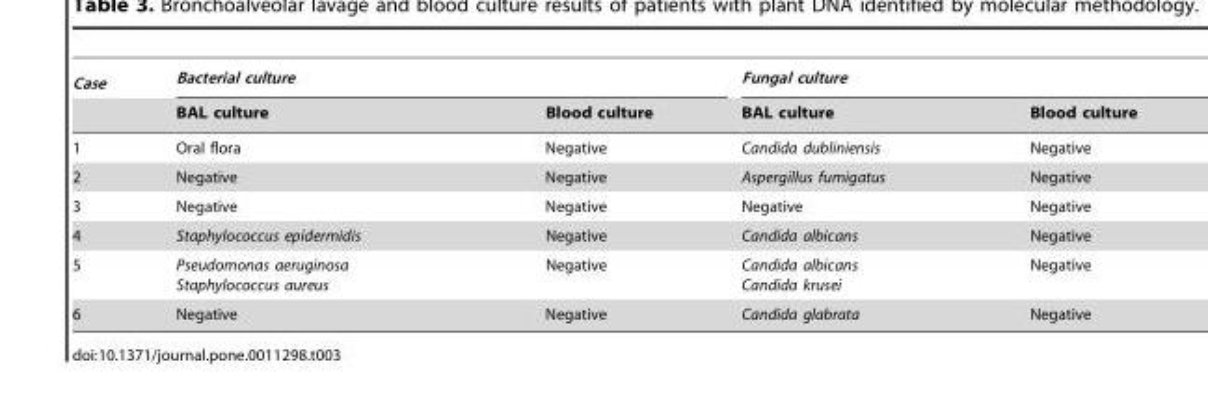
<table><thead><tr><td rowspan="2">Case</td><td colspan="2">Bacterial culture</td><td colspan="2">Fungal culture</td></tr><tr><td>BAL culture</td><td>Blood culture</td><td>BAL culture</td><td>Blood culture</td></tr></thead><tbody><tr><td>1</td><td>Oral flora</td><td>Negative</td><td>Candida dubliniensis</td><td>Negative</td></tr><tr><td>2</td><td>Negative</td><td>Negative</td><td>Aspergillus fumigatus</td><td>Negative</td></tr><tr><td>3</td><td>Negative</td><td>Negative</td><td>Negative</td><td>Negative</td></tr><tr><td>4</td><td>Staphylococcus epidermidis</td><td>Negative</td><td>Candida albicans</td><td>Negative</td></tr><tr><td>5</td><td>Pseudomonas aeruginosa Staphylococcus aureus</td><td>Negative</td><td>Candida albicans Candida krusei</td><td>Negative</td></tr><tr><td>6</td><td>Negative</td><td>Negative</td><td>Candida glabrata</td><td>Negative</td></tr></tbody></table>